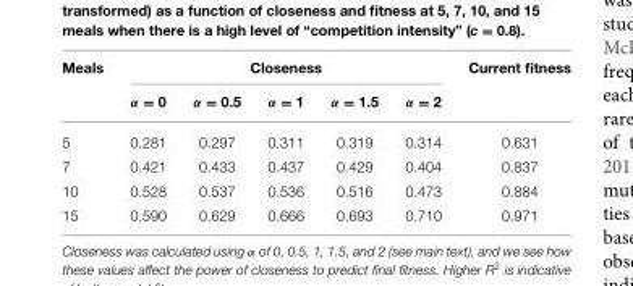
<table><thead><tr><td rowspan="2">Meals</td><td colspan="5">Closeness</td><td rowspan="2">Current fitness</td></tr><tr><td>α = 0</td><td>α = 0.5</td><td>α = 1</td><td>α = 1.5</td><td>α = 2</td></tr></thead><tbody><tr><td>5</td><td>0.281</td><td>0.297</td><td>0.311</td><td>0.319</td><td>0.314</td><td>0.631</td></tr><tr><td>7</td><td>0.421</td><td>0.433</td><td>0.437</td><td>0.429</td><td>0.404</td><td>0.837</td></tr><tr><td>10</td><td>0.528</td><td>0.537</td><td>0.536</td><td>0.516</td><td>0.473</td><td>0.884</td></tr><tr><td>15</td><td>0.590</td><td>0.629</td><td>0.666</td><td>0.693</td><td>0.710</td><td>0.971</td></tr></tbody></table>